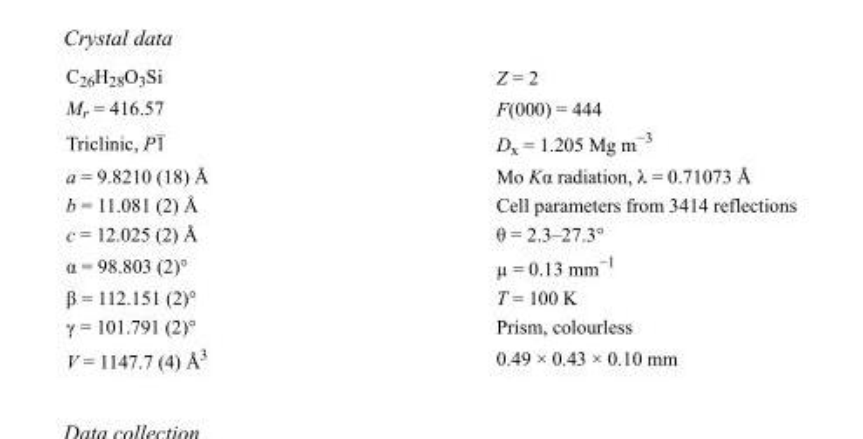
<table><tbody><tr><td>C<sub>26</sub>H<sub>28</sub>O<sub>3</sub>Si</td><td>Z = 2</td></tr><tr><td>M<sub>r</sub> = 416.57</td><td>F(000) = 444</td></tr><tr><td>Triclinic, P1</td><td>D<sub>x</sub> = 1.205 Mg m<sup>−3</sup></td></tr><tr><td>a = 9.8210 (18) Å</td><td>Mo Kα radiation, λ = 0.71073 Å</td></tr><tr><td>b = 11.081 (2) Å</td><td>Cell parameters from 3414 reflections</td></tr><tr><td>c = 12.025 (2) Å</td><td>θ = 2.3–27.3°</td></tr><tr><td>α = 98.803 (2)°</td><td>µ = 0.13 mm<sup>−1</sup></td></tr><tr><td>β = 112.151 (2)°</td><td>T = 100 K</td></tr><tr><td>γ = 101.791 (2)°</td><td>Prism, colourless</td></tr><tr><td>V = 1147.7 (4) Å<sup>3</sup></td><td>0.49 × 0.43 × 0.10 mm</td></tr></tbody></table>